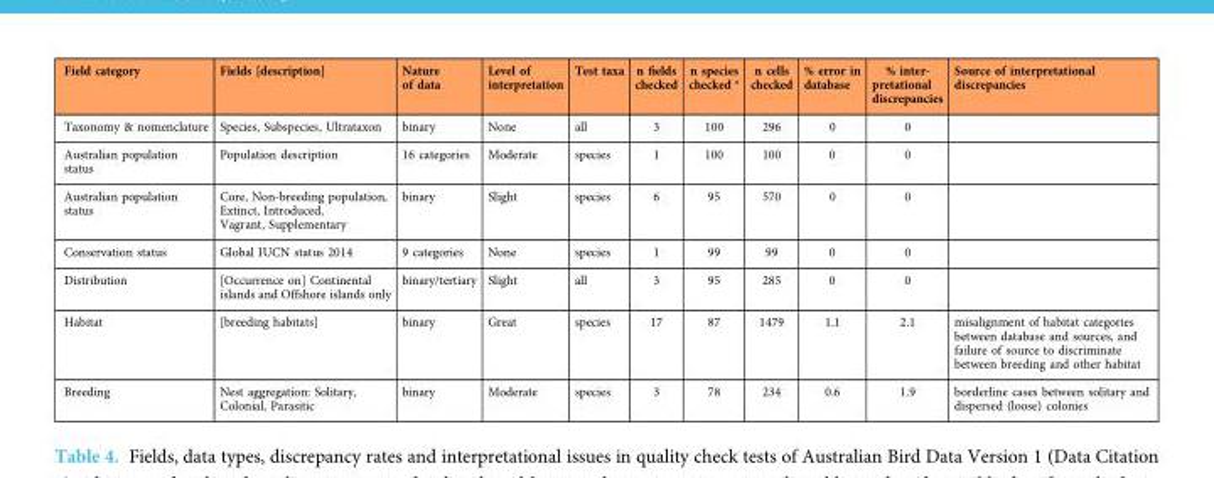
<table><thead><tr><td>Field category</td><td>Fields [description]</td><td>Nature of data</td><td>Level of interpretation</td><td>Test taxa</td><td>n fields checked</td><td>n species checked *</td><td>n cells checked</td><td>% error in database</td><td>% inter- pretational discrepancies</td><td>Source of interpretational discrepancies</td></tr></thead><tbody><tr><td>Taxonomy &amp; nomenclature</td><td>Species, Subspecies, Ultrataxon</td><td>binary</td><td>None</td><td>all</td><td>3</td><td>100</td><td>296</td><td>0</td><td>0</td><td></td></tr><tr><td>Australian population status</td><td>Population description</td><td>16 categories</td><td>Moderate</td><td>species</td><td>1</td><td>100</td><td>100</td><td>0</td><td>0</td><td></td></tr><tr><td>Australian population status</td><td>Core, Non-breeding population, Extinct, Introduced, Vagrant, Supplementary</td><td>binary</td><td>Slight</td><td>species</td><td>6</td><td>95</td><td>570</td><td>0</td><td>0</td><td></td></tr><tr><td>Conservation status</td><td>Global IUCN status 2014</td><td>9 categories</td><td>None</td><td>species</td><td>1</td><td>99</td><td>99</td><td>0</td><td>0</td><td></td></tr><tr><td>Distribution</td><td>[Occurrence on] Continental islands and Offshore islands only</td><td>binary/tertiary</td><td>Slight</td><td>all</td><td>3</td><td>95</td><td>285</td><td>0</td><td>0</td><td></td></tr><tr><td>Habitat</td><td>[breeding habitats]</td><td>binary</td><td>Great</td><td>species</td><td>17</td><td>87</td><td>1479</td><td>1.1</td><td>2.1</td><td>misalignment of habitat categories between database and sources, and failure of source to discriminate between breeding and other habitat</td></tr><tr><td>Breeding</td><td>Nest aggregation: Solitary, Colonial, Parasitic</td><td>binary</td><td>Moderate</td><td>species</td><td>3</td><td>78</td><td>234</td><td>0.6</td><td>1.9</td><td>borderline cases between solitary and dispersed (loose) colonies</td></tr></tbody></table>